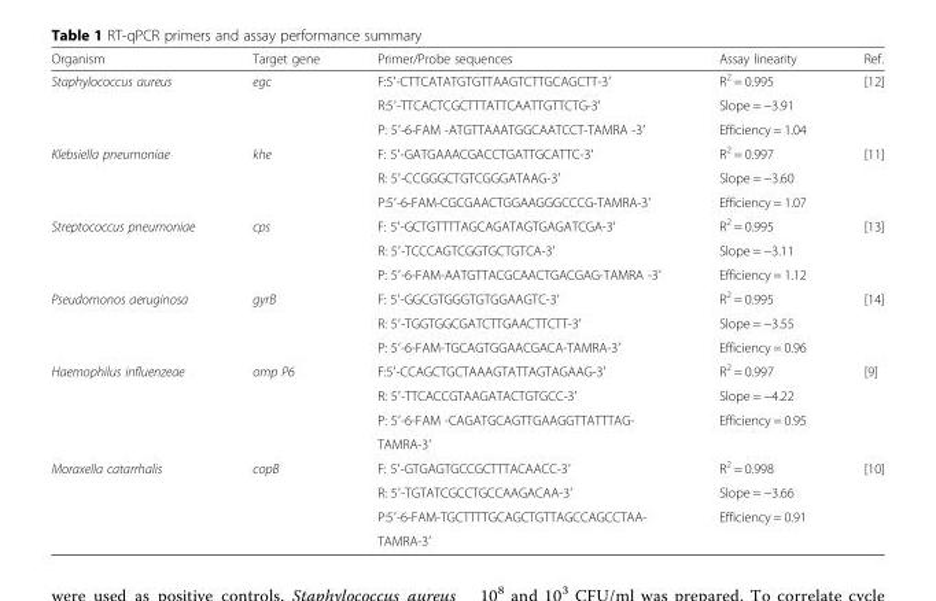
<table><thead><tr><td>Organism</td><td>Target gene</td><td>Primer/Probe sequences</td><td>Assay linearity</td><td>Ref.</td></tr></thead><tbody><tr><td rowspan="3">Staphylococcus aureus</td><td rowspan="3">egc</td><td>F:5′-CTTCATATGTGTTAAGTCTTGCAGCTT-3′</td><td>R<sup>2</sup> = 0.995</td><td rowspan="3">[12]</td></tr><tr><td>R:5′-TTCACTCGCTTTATTCAATTGTTCTG-3′</td><td>Slope = −3.91</td></tr><tr><td>P: 5′-6-FAM -ATGTTAAATGGCAATCCT-TAMRA -3′</td><td>Efficiency = 1.04</td></tr><tr><td rowspan="3">Klebsiella pneumoniae</td><td rowspan="3">khe</td><td>F: 5′-GATGAAACGACCTGATTGCATTC-3′</td><td>R<sup>2</sup> = 0.997</td><td rowspan="3">[11]</td></tr><tr><td>R: 5′-CCGGGCTGTCGGGATAAG-3′</td><td>Slope = −3.60</td></tr><tr><td>P:5′-6-FAM-CGCGAACTGGAAGGGCCCG-TAMRA-3′</td><td>Efficiency = 1.07</td></tr><tr><td rowspan="3">Streptococcus pneumoniae</td><td rowspan="3">cps</td><td>F: 5′-GCTGTTTTAGCAGATAGTGAGATCGA-3′</td><td>R<sup>2</sup> = 0.995</td><td rowspan="3">[13]</td></tr><tr><td>R: 5′-TCCCAGTCGGTGCTGTCA-3′</td><td>Slope = −3.11</td></tr><tr><td>P: 5′-6-FAM-AATGTTACGCAACTGACGAG-TAMRA -3′</td><td>Efficiency = 1.12</td></tr><tr><td rowspan="3">Pseudomonos aeruginosa</td><td rowspan="3">gyrB</td><td>F: 5′-GGCGTGGGTGTGGAAGTC-3′</td><td>R<sup>2</sup> = 0.995</td><td rowspan="3">[14]</td></tr><tr><td>R: 5′-TGGTGGCGATCTTGAACTTCTT-3′</td><td>Slope = −3.55</td></tr><tr><td>P: 5′-6-FAM-TGCAGTGGAACGACA-TAMRA-3′</td><td>Efficiency = 0.96</td></tr><tr><td rowspan="4">Haemophilus influenzeae</td><td rowspan="4">omp P6</td><td>F:5′-CCAGCTGCTAAAGTATTAGTAGAAG-3′</td><td>R<sup>2</sup> = 0.997</td><td rowspan="4">[9]</td></tr><tr><td>R: 5′-TTCACCGTAAGATACTGTGCC-3′</td><td>Slope = −4.22</td></tr><tr><td>P: 5′-6-FAM -CAGATGCAGTTGAAGGTTATTTAG-</td><td>Efficiency = 0.95</td></tr><tr><td>TAMRA-3′</td><td></td></tr><tr><td rowspan="4">Moraxella catarrhalis</td><td rowspan="4">copB</td><td>F: 5′-GTGAGTGCCGCTTTACAACC-3′</td><td>R<sup>2</sup> = 0.998</td><td rowspan="4">[10]</td></tr><tr><td>R: 5′-TGTATCGCCTGCCAAGACAA-3′</td><td>Slope = −3.66</td></tr><tr><td>P:5′-6-FAM-TGCTTTTGCAGCTGTTAGCCAGCCTAA-</td><td>Efficiency = 0.91</td></tr><tr><td>TAMRA-3′</td><td></td></tr></tbody></table>